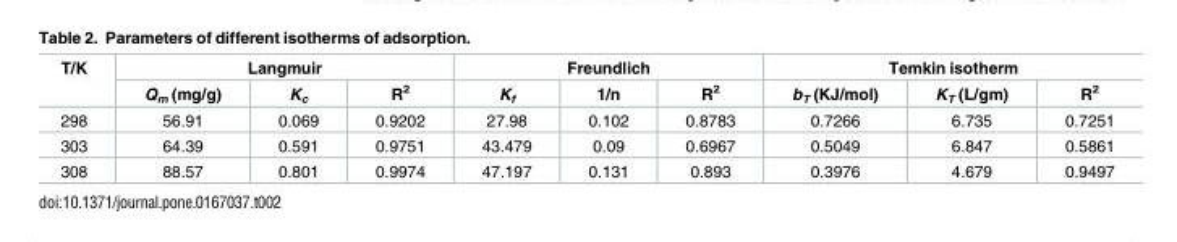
<table><thead><tr><td rowspan="2">T/K</td><td colspan="3">Langmuir</td><td colspan="3">Freundlich</td><td colspan="3">Temkin isotherm</td></tr><tr><td>Q<sub>m</sub> (mg/g)</td><td>K<sub>c</sub></td><td>R<sup>2</sup></td><td>K<sub>f</sub></td><td>1/n</td><td>R<sup>2</sup></td><td>b<sub>T</sub> (KJ/mol)</td><td>K<sub>T</sub> (L/gm)</td><td>R<sup>2</sup></td></tr></thead><tbody><tr><td>298</td><td>56.91</td><td>0.069</td><td>0.9202</td><td>27.98</td><td>0.102</td><td>0.8783</td><td>0.7266</td><td>6.735</td><td>0.7251</td></tr><tr><td>303</td><td>64.39</td><td>0.591</td><td>0.9751</td><td>43.479</td><td>0.09</td><td>0.6967</td><td>0.5049</td><td>6.847</td><td>0.5861</td></tr><tr><td>308</td><td>88.57</td><td>0.801</td><td>0.9974</td><td>47.197</td><td>0.131</td><td>0.893</td><td>0.3976</td><td>4.679</td><td>0.9497</td></tr></tbody></table>